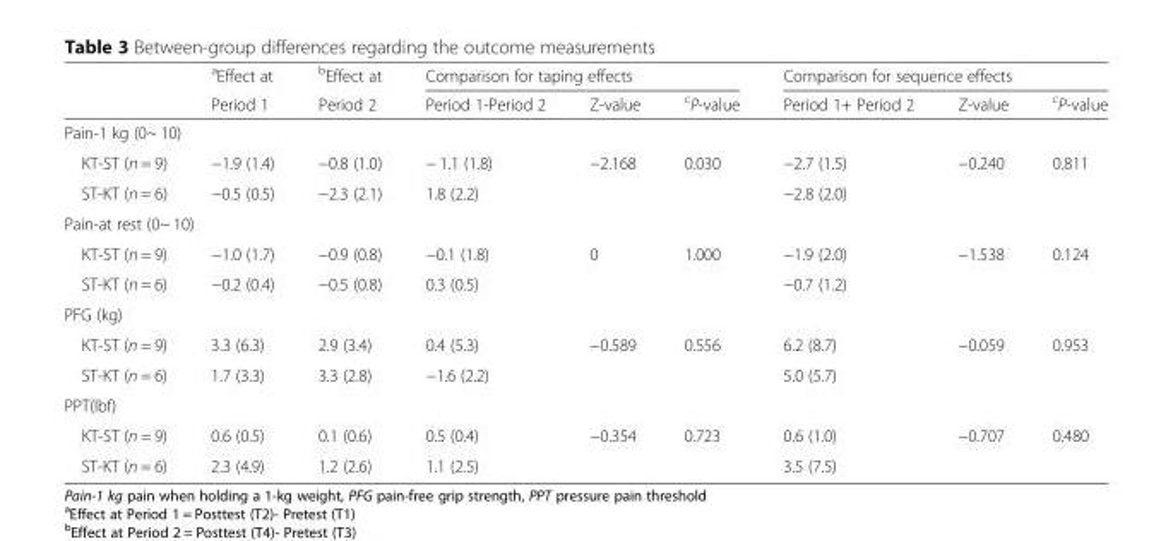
<table><thead><tr><td rowspan="2"></td><td rowspan="2"><sup>a</sup>Effect at Period 1</td><td rowspan="2"><sup>b</sup>Effect at Period 2</td><td colspan="3">Comparison for taping effects</td><td colspan="3">Comparison for sequence effects</td></tr><tr><td>Period 1-Period 2</td><td>Z-value</td><td><sup>c</sup>P-value</td><td>Period 1+ Period 2</td><td>Z-value</td><td><sup>c</sup>P-value</td></tr></thead><tbody><tr><td colspan="9">Pain-1 kg (0~ 10)</td></tr><tr><td>KT-ST (n = 9)</td><td>−1.9 (1.4)</td><td>−0.8 (1.0)</td><td>− 1.1 (1.8)</td><td>−2.168</td><td>0.030</td><td>−2.7 (1.5)</td><td>−0.240</td><td>0.811</td></tr><tr><td>ST-KT (n = 6)</td><td>−0.5 (0.5)</td><td>−2.3 (2.1)</td><td>1.8 (2.2)</td><td></td><td></td><td>−2.8 (2.0)</td><td></td><td></td></tr><tr><td colspan="9">Pain-at rest (0~ 10)</td></tr><tr><td>KT-ST (n = 9)</td><td>−1.0 (1.7)</td><td>−0.9 (0.8)</td><td>−0.1 (1.8)</td><td>0</td><td>1.000</td><td>−1.9 (2.0)</td><td>−1.538</td><td>0.124</td></tr><tr><td>ST-KT (n = 6)</td><td>−0.2 (0.4)</td><td>−0.5 (0.8)</td><td>0.3 (0.5)</td><td></td><td></td><td>−0.7 (1.2)</td><td></td><td></td></tr><tr><td colspan="9">PFG (kg)</td></tr><tr><td>KT-ST (n = 9)</td><td>3.3 (6.3)</td><td>2.9 (3.4)</td><td>0.4 (5.3)</td><td>−0.589</td><td>0.556</td><td>6.2 (8.7)</td><td>−0.059</td><td>0.953</td></tr><tr><td>ST-KT (n = 6)</td><td>1.7 (3.3)</td><td>3.3 (2.8)</td><td>−1.6 (2.2)</td><td></td><td></td><td>5.0 (5.7)</td><td></td><td></td></tr><tr><td colspan="9">PPT(lbf)</td></tr><tr><td>KT-ST (n = 9)</td><td>0.6 (0.5)</td><td>0.1 (0.6)</td><td>0.5 (0.4)</td><td>−0.354</td><td>0.723</td><td>0.6 (1.0)</td><td>−0.707</td><td>0.480</td></tr><tr><td>ST-KT (n = 6)</td><td>2.3 (4.9)</td><td>1.2 (2.6)</td><td>1.1 (2.5)</td><td></td><td></td><td>3.5 (7.5)</td><td></td><td></td></tr></tbody></table>